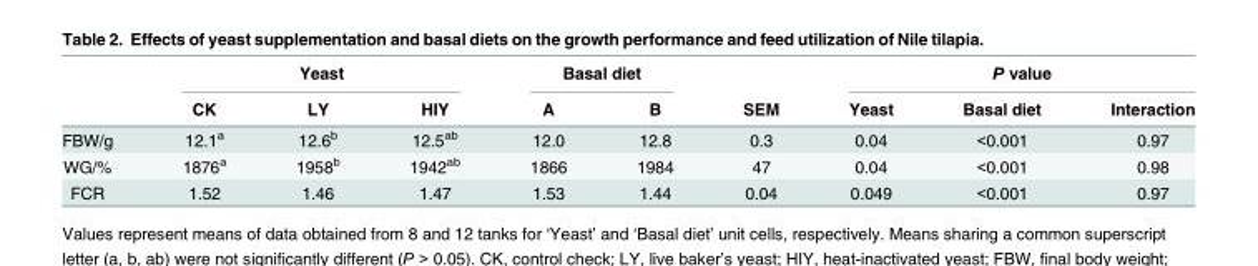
<table><thead><tr><td rowspan="2"></td><td colspan="3">Yeast</td><td colspan="2">Basal diet</td><td rowspan="2">SEM</td><td colspan="3">P value</td></tr><tr><td>CK</td><td>LY</td><td>HIY</td><td>A</td><td>B</td><td>Yeast</td><td>Basal diet</td><td>Interaction</td></tr></thead><tbody><tr><td>FBW/g</td><td>12.1<sup>a</sup></td><td>12.6<sup>b</sup></td><td>12.5<sup>ab</sup></td><td>12.0</td><td>12.8</td><td>0.3</td><td>0.04</td><td>&lt;0.001</td><td>0.97</td></tr><tr><td>WG/%</td><td>1876<sup>a</sup></td><td>1958<sup>b</sup></td><td>1942<sup>ab</sup></td><td>1866</td><td>1984</td><td>47</td><td>0.04</td><td>&lt;0.001</td><td>0.98</td></tr><tr><td>FCR</td><td>1.52</td><td>1.46</td><td>1.47</td><td>1.53</td><td>1.44</td><td>0.04</td><td>0.049</td><td>&lt;0.001</td><td>0.97</td></tr></tbody></table>